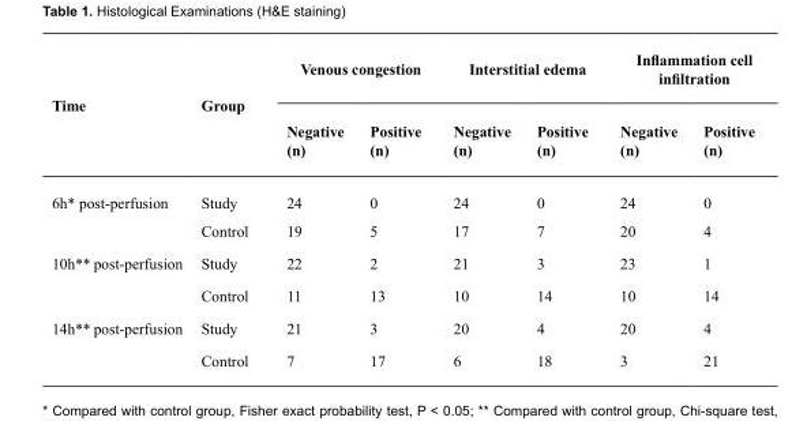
<table><thead><tr><td rowspan="2">Time</td><td rowspan="2">Group</td><td colspan="2">Venous congestion</td><td colspan="2">Interstitial edema</td><td colspan="2">Inflammation cell infiltration</td></tr><tr><td>Negative (n)</td><td>Positive (n)</td><td>Negative (n)</td><td>Positive (n)</td><td>Negative (n)</td><td>Positive (n)</td></tr></thead><tbody><tr><td rowspan="2">6h* post-perfusion</td><td>Study</td><td>24</td><td>0</td><td>24</td><td>0</td><td>24</td><td>0</td></tr><tr><td>Control</td><td>19</td><td>5</td><td>17</td><td>7</td><td>20</td><td>4</td></tr><tr><td rowspan="2">10h** post-perfusion</td><td>Study</td><td>22</td><td>2</td><td>21</td><td>3</td><td>23</td><td>1</td></tr><tr><td>Control</td><td>11</td><td>13</td><td>10</td><td>14</td><td>10</td><td>14</td></tr><tr><td rowspan="2">14h** post-perfusion</td><td>Study</td><td>21</td><td>3</td><td>20</td><td>4</td><td>20</td><td>4</td></tr><tr><td>Control</td><td>7</td><td>17</td><td>6</td><td>18</td><td>3</td><td>21</td></tr></tbody></table>